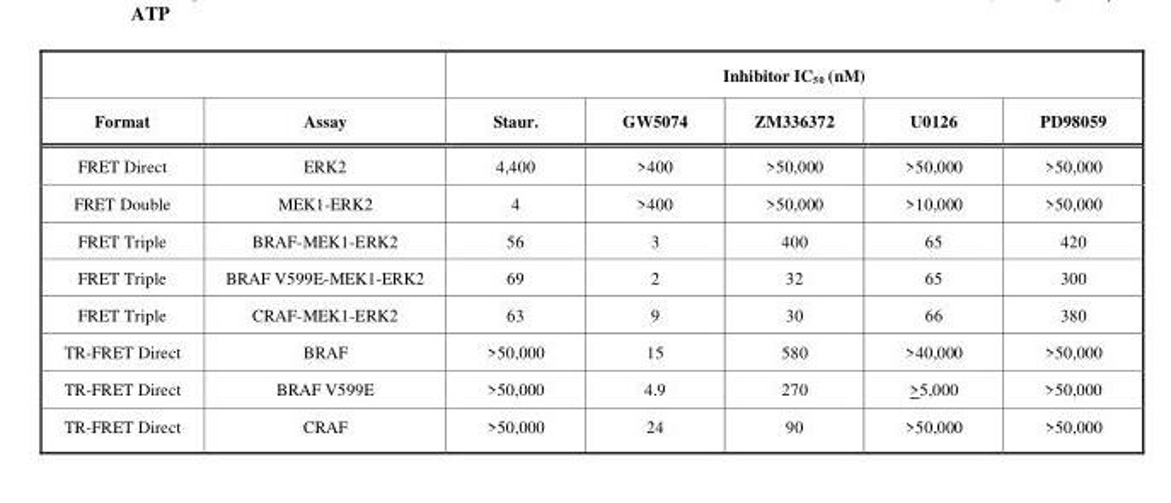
<table><thead><tr><td rowspan="2">Format</td><td rowspan="2">Assay</td><td colspan="5">Inhibitor IC<sub>50</sub> (nM)</td></tr><tr><td>Staur.</td><td>GW5074</td><td>ZM336372</td><td>U0126</td><td>PD98059</td></tr></thead><tbody><tr><td>FRET Direct</td><td>ERK2</td><td>4,400</td><td>&gt;400</td><td>&gt;50,000</td><td>&gt;50,000</td><td>&gt;50,000</td></tr><tr><td>FRET Double</td><td>MEK1-ERK2</td><td>4</td><td>&gt;400</td><td>&gt;50,000</td><td>&gt;10,000</td><td>&gt;50,000</td></tr><tr><td>FRET Triple</td><td>BRAF-MEK1-ERK2</td><td>56</td><td>3</td><td>400</td><td>65</td><td>420</td></tr><tr><td>FRET Triple</td><td>BRAF V599E-MEK1-ERK2</td><td>69</td><td>2</td><td>32</td><td>65</td><td>300</td></tr><tr><td>FRET Triple</td><td>CRAF-MEK1-ERK2</td><td>63</td><td>9</td><td>30</td><td>66</td><td>380</td></tr><tr><td>TR-FRET Direct</td><td>BRAF</td><td>&gt;50,000</td><td>15</td><td>580</td><td>&gt;40,000</td><td>&gt;50,000</td></tr><tr><td>TR-FRET Direct</td><td>BRAF V599E</td><td>&gt;50,000</td><td>4.9</td><td>270</td><td>&gt;5,000</td><td>&gt;50,000</td></tr><tr><td>TR-FRET Direct</td><td>CRAF</td><td>&gt;50,000</td><td>24</td><td>90</td><td>&gt;50,000</td><td>&gt;50,000</td></tr></tbody></table>